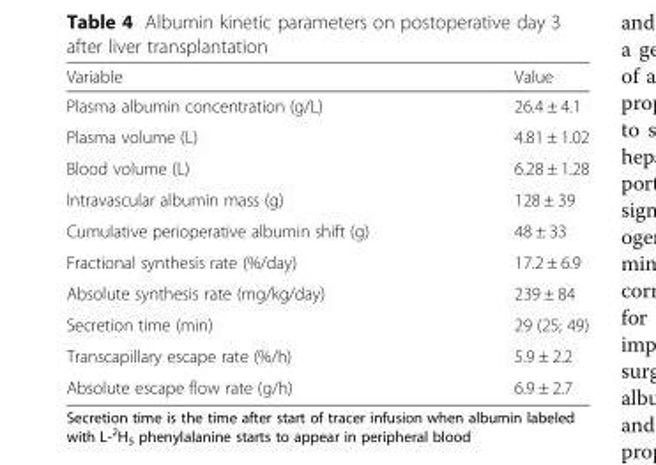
<table><thead><tr><td>Variable</td><td>Value</td></tr></thead><tbody><tr><td>Plasma albumin concentration (g/L)</td><td>26.4 ± 4.1</td></tr><tr><td>Plasma volume (L)</td><td>4.81 ± 1.02</td></tr><tr><td>Blood volume (L)</td><td>6.28 ± 1.28</td></tr><tr><td>Intravascular albumin mass (g)</td><td>128 ± 39</td></tr><tr><td>Cumulative perioperative albumin shift (g)</td><td>48 ± 33</td></tr><tr><td>Fractional synthesis rate (%/day)</td><td>17.2 ± 6.9</td></tr><tr><td>Absolute synthesis rate (mg/kg/day)</td><td>239 ± 84</td></tr><tr><td>Secretion time (min)</td><td>29 (25; 49)</td></tr><tr><td>Transcapillary escape rate (%/h)</td><td>5.9 ± 2.2</td></tr><tr><td>Absolute escape flow rate (g/h)</td><td>6.9 ± 2.7</td></tr></tbody></table>